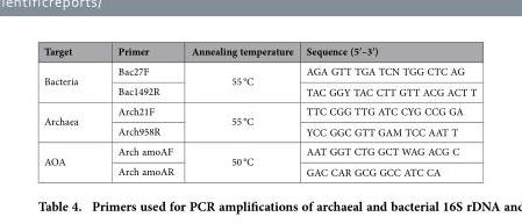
<table><thead><tr><td>Target</td><td>Primer</td><td>Annealing temperature</td><td>Sequence (5′–3′)</td></tr></thead><tbody><tr><td rowspan="2">Bacteria</td><td>Bac27F</td><td rowspan="2">55 °C</td><td>AGA GTT TGA TCN TGG CTC AG</td></tr><tr><td>Bac1492R</td><td>TAC GGY TAC CTT GTT ACG ACT T</td></tr><tr><td rowspan="2">Archaea</td><td>Arch21F</td><td rowspan="2">55 °C</td><td>TTC CGG TTG ATC CYG CCG GA</td></tr><tr><td>Arch958R</td><td>YCC GGC GTT GAM TCC AAT T</td></tr><tr><td rowspan="2">AOA</td><td>Arch amoAF</td><td rowspan="2">50 °C</td><td>AAT GGT CTG GCT WAG ACG C</td></tr><tr><td>Arch amoAR</td><td>GAC CAR GCG GCC ATC CA</td></tr></tbody></table>